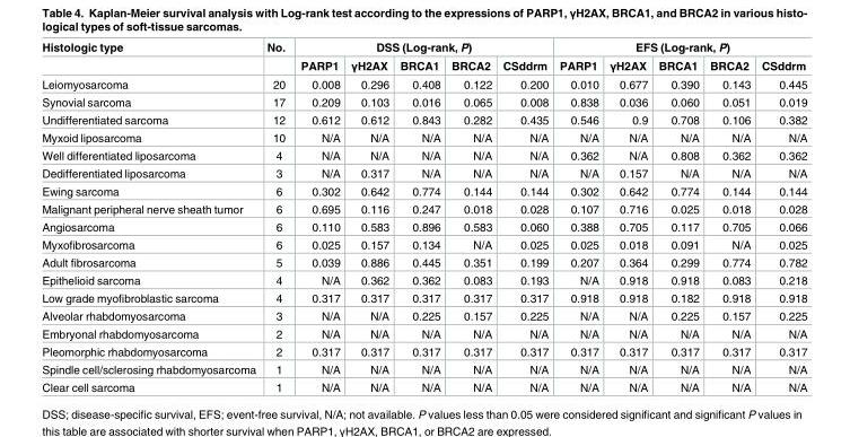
<table><thead><tr><td rowspan="2">Histologic type</td><td rowspan="2">No.</td><td colspan="5">DSS (Log-rank, P)</td><td colspan="5">EFS (Log-rank, P)</td></tr><tr><td>PARP1</td><td>γH2AX</td><td>BRCA1</td><td>BRCA2</td><td>CSddrm</td><td>PARP1</td><td>γH2AX</td><td>BRCA1</td><td>BRCA2</td><td>CSddrm</td></tr></thead><tbody><tr><td>Leiomyosarcoma</td><td>20</td><td>0.008</td><td>0.296</td><td>0.408</td><td>0.122</td><td>0.200</td><td>0.010</td><td>0.677</td><td>0.390</td><td>0.143</td><td>0.445</td></tr><tr><td>Synovial sarcoma</td><td>17</td><td>0.209</td><td>0.103</td><td>0.016</td><td>0.065</td><td>0.008</td><td>0.838</td><td>0.036</td><td>0.060</td><td>0.051</td><td>0.019</td></tr><tr><td>Undifferentiated sarcoma</td><td>12</td><td>0.612</td><td>0.612</td><td>0.843</td><td>0.282</td><td>0.435</td><td>0.546</td><td>0.9</td><td>0.708</td><td>0.106</td><td>0.382</td></tr><tr><td>Myxoid liposarcoma</td><td>10</td><td>N/A</td><td>N/A</td><td>N/A</td><td>N/A</td><td>N/A</td><td>N/A</td><td>N/A</td><td>N/A</td><td>N/A</td><td>N/A</td></tr><tr><td>Well differentiated liposarcoma</td><td>4</td><td>N/A</td><td>N/A</td><td>N/A</td><td>N/A</td><td>N/A</td><td>0.362</td><td>N/A</td><td>0.808</td><td>0.362</td><td>0.362</td></tr><tr><td>Dedifferentiated liposarcoma</td><td>3</td><td>N/A</td><td>0.317</td><td>N/A</td><td>N/A</td><td>N/A</td><td>N/A</td><td>0.157</td><td>N/A</td><td>N/A</td><td>N/A</td></tr><tr><td>Ewing sarcoma</td><td>6</td><td>0.302</td><td>0.642</td><td>0.774</td><td>0.144</td><td>0.144</td><td>0.302</td><td>0.642</td><td>0.774</td><td>0.144</td><td>0.144</td></tr><tr><td>Malignant peripheral nerve sheath tumor</td><td>6</td><td>0.695</td><td>0.116</td><td>0.247</td><td>0.018</td><td>0.028</td><td>0.107</td><td>0.716</td><td>0.025</td><td>0.018</td><td>0.028</td></tr><tr><td>Angiosarcoma</td><td>6</td><td>0.110</td><td>0.583</td><td>0.896</td><td>0.583</td><td>0.060</td><td>0.388</td><td>0.705</td><td>0.117</td><td>0.705</td><td>0.066</td></tr><tr><td>Myxofibrosarcoma</td><td>6</td><td>0.025</td><td>0.157</td><td>0.134</td><td>N/A</td><td>0.025</td><td>0.025</td><td>0.018</td><td>0.091</td><td>N/A</td><td>0.025</td></tr><tr><td>Adult fibrosarcoma</td><td>5</td><td>0.039</td><td>0.886</td><td>0.445</td><td>0.351</td><td>0.199</td><td>0.207</td><td>0.364</td><td>0.299</td><td>0.774</td><td>0.782</td></tr><tr><td>Epithelioid sarcoma</td><td>4</td><td>N/A</td><td>0.362</td><td>0.362</td><td>0.083</td><td>0.193</td><td>N/A</td><td>0.918</td><td>0.918</td><td>0.083</td><td>0.218</td></tr><tr><td>Low grade myofibroblastic sarcoma</td><td>4</td><td>0.317</td><td>0.317</td><td>0.317</td><td>0.317</td><td>0.317</td><td>0.918</td><td>0.918</td><td>0.182</td><td>0.918</td><td>0.918</td></tr><tr><td>Alveolar rhabdomyosarcoma</td><td>3</td><td>N/A</td><td>N/A</td><td>0.225</td><td>0.157</td><td>0.225</td><td>N/A</td><td>N/A</td><td>0.225</td><td>0.157</td><td>0.225</td></tr><tr><td>Embryonal rhabdomyosarcoma</td><td>2</td><td>N/A</td><td>N/A</td><td>N/A</td><td>N/A</td><td>N/A</td><td>N/A</td><td>N/A</td><td>N/A</td><td>N/A</td><td>N/A</td></tr><tr><td>Pleomorphic rhabdomyosarcoma</td><td>2</td><td>0.317</td><td>0.317</td><td>0.317</td><td>0.317</td><td>0.317</td><td>0.317</td><td>0.317</td><td>0.317</td><td>0.317</td><td>0.317</td></tr><tr><td>Spindle cell/sclerosing rhabdomyosarcoma</td><td>1</td><td>N/A</td><td>N/A</td><td>N/A</td><td>N/A</td><td>N/A</td><td>N/A</td><td>N/A</td><td>N/A</td><td>N/A</td><td>N/A</td></tr><tr><td>Clear cell sarcoma</td><td>1</td><td>N/A</td><td>N/A</td><td>N/A</td><td>N/A</td><td>N/A</td><td>N/A</td><td>N/A</td><td>N/A</td><td>N/A</td><td>N/A</td></tr></tbody></table>